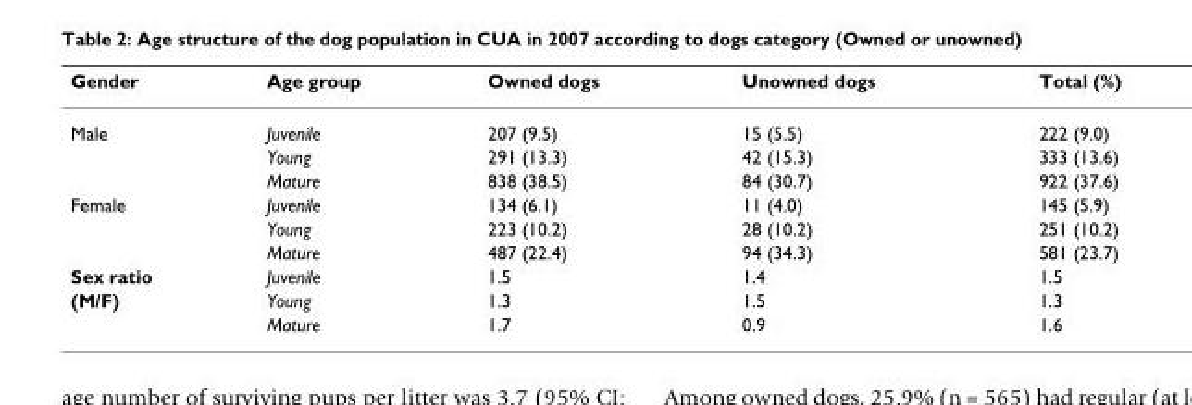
<table><thead><tr><td>Gender</td><td>Age group</td><td>Owned dogs</td><td>Unowned dogs</td><td>Total (%)</td></tr></thead><tbody><tr><td rowspan="3">Male</td><td>Juvenile</td><td>207 (9.5)</td><td>15 (5.5)</td><td>222 (9.0)</td></tr><tr><td>Young</td><td>291 (13.3)</td><td>42 (15.3)</td><td>333 (13.6)</td></tr><tr><td>Mature</td><td>838 (38.5)</td><td>84 (30.7)</td><td>922 (37.6)</td></tr><tr><td rowspan="3">Female</td><td>Juvenile</td><td>134 (6.1)</td><td>11 (4.0)</td><td>145 (5.9)</td></tr><tr><td>Young</td><td>223 (10.2)</td><td>28 (10.2)</td><td>251 (10.2)</td></tr><tr><td>Mature</td><td>487 (22.4)</td><td>94 (34.3)</td><td>581 (23.7)</td></tr><tr><td>Sex ratio</td><td>Juvenile</td><td>1.5</td><td>1.4</td><td>1.5</td></tr><tr><td rowspan="2">(M/F)</td><td>Young</td><td>1.3</td><td>1.5</td><td>1.3</td></tr><tr><td>Mature</td><td>1.7</td><td>0.9</td><td>1.6</td></tr></tbody></table>